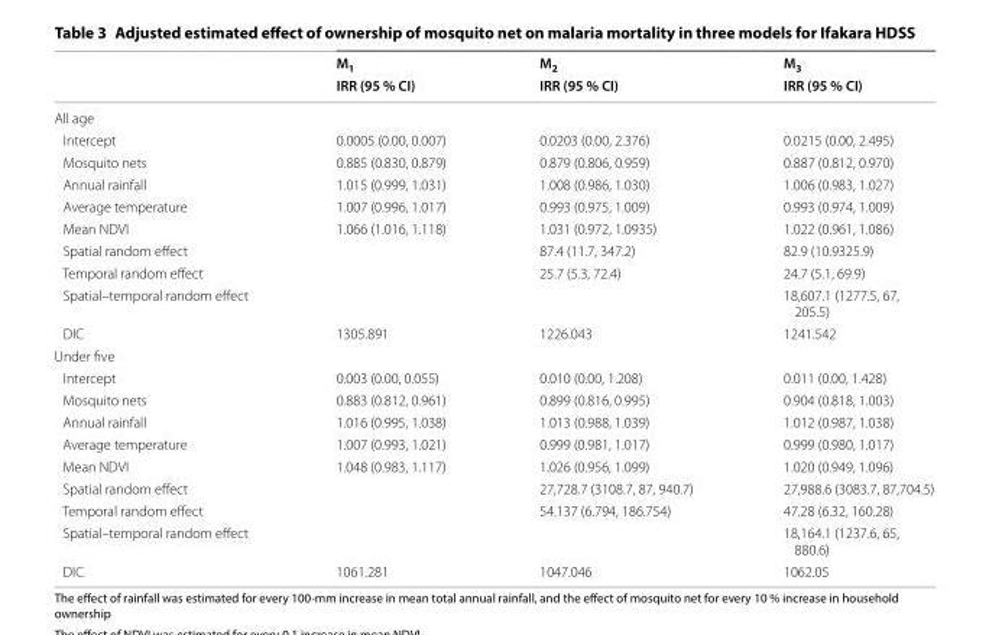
<table><thead><tr><td rowspan="2"></td><td rowspan="2">M<sub>1</sub> IRR (95 % CI)</td><td rowspan="2">M<sub>2</sub> IRR (95 % CI)</td><td rowspan="2">M<sub>3</sub> IRR (95 % CI)</td></tr><tr></tr></thead><tbody><tr><td colspan="4">All age</td></tr><tr><td>Intercept</td><td>0.0005 (0.00, 0.007)</td><td>0.0203 (0.00, 2.376)</td><td>0.0215 (0.00, 2.495)</td></tr><tr><td>Mosquito nets</td><td>0.885 (0.830, 0.879)</td><td>0.879 (0.806, 0.959)</td><td>0.887 (0.812, 0.970)</td></tr><tr><td>Annual rainfall</td><td>1.015 (0.999, 1.031)</td><td>1.008 (0.986, 1.030)</td><td>1.006 (0.983, 1.027)</td></tr><tr><td>Average temperature</td><td>1.007 (0.996, 1.017)</td><td>0.993 (0.975, 1.009)</td><td>0.993 (0.974, 1.009)</td></tr><tr><td>Mean NDVI</td><td>1.066 (1.016, 1.118)</td><td>1.031 (0.972, 1.0935)</td><td>1.022 (0.961, 1.086)</td></tr><tr><td>Spatial random effect</td><td></td><td>87.4 (11.7, 347.2)</td><td>82.9 (10.9325.9)</td></tr><tr><td>Temporal random effect</td><td></td><td>25.7 (5.3, 72.4)</td><td>24.7 (5.1, 69.9)</td></tr><tr><td>Spatial–temporal random effect</td><td></td><td></td><td>18,607.1 (1277.5, 67, 205.5)</td></tr><tr><td>DIC</td><td>1305.891</td><td>1226.043</td><td>1241.542</td></tr><tr><td colspan="4">Under five</td></tr><tr><td>Intercept</td><td>0.003 (0.00, 0.055)</td><td>0.010 (0.00, 1.208)</td><td>0.011 (0.00, 1.428)</td></tr><tr><td>Mosquito nets</td><td>0.883 (0.812, 0.961)</td><td>0.899 (0.816, 0.995)</td><td>0.904 (0.818, 1.003)</td></tr><tr><td>Annual rainfall</td><td>1.016 (0.995, 1.038)</td><td>1.013 (0.988, 1.039)</td><td>1.012 (0.987, 1.038)</td></tr><tr><td>Average temperature</td><td>1.007 (0.993, 1.021)</td><td>0.999 (0.981, 1.017)</td><td>0.999 (0.980, 1.017)</td></tr><tr><td>Mean NDVI</td><td>1.048 (0.983, 1.117)</td><td>1.026 (0.956, 1.099)</td><td>1.020 (0.949, 1.096)</td></tr><tr><td>Spatial random effect</td><td></td><td>27,728.7 (3108.7, 87, 940.7)</td><td>27,988.6 (3083.7, 87,704.5)</td></tr><tr><td>Temporal random effect</td><td></td><td>54.137 (6.794, 186.754)</td><td>47.28 (6.32, 160.28)</td></tr><tr><td>Spatial–temporal random effect</td><td></td><td></td><td>18,164.1 (1237.6, 65, 880.6)</td></tr><tr><td>DIC</td><td>1061.281</td><td>1047.046</td><td>1062.05</td></tr></tbody></table>